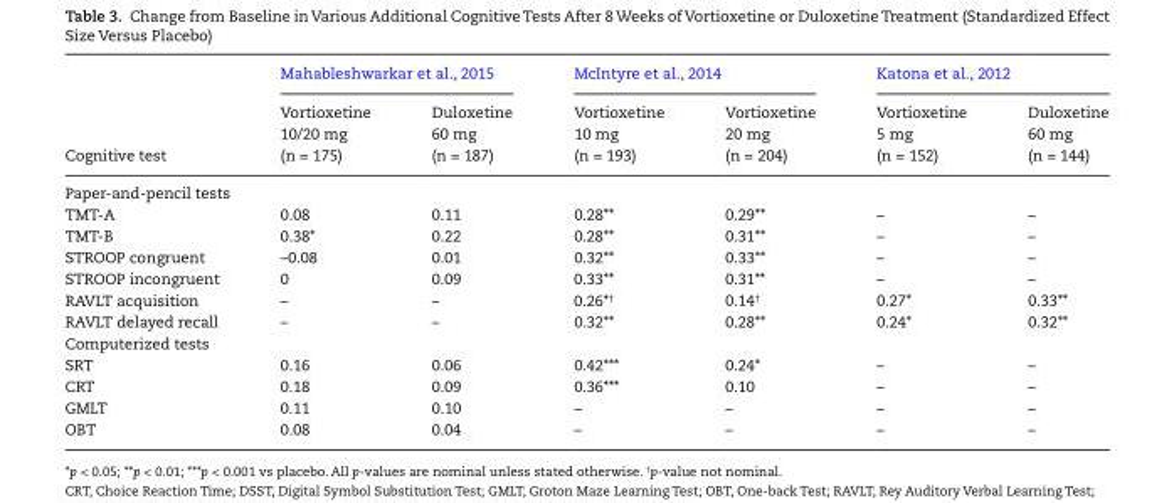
<table><thead><tr><td rowspan="2">Cognitive test</td><td colspan="2">Mahableshwarkar et al., 2015</td><td colspan="2">McIntyre et al., 2014</td><td colspan="2">Katona et al., 2012</td></tr><tr><td>Vortioxetine 10/20 mg (n = 175)</td><td>Duloxetine 60 mg (n = 187)</td><td>Vortioxetine 10 mg (n = 193)</td><td>Vortioxetine 20 mg (n = 204)</td><td>Vortioxetine 5 mg (n = 152)</td><td>Duloxetine 60 mg (n = 144)</td></tr></thead><tbody><tr><td colspan="7">Paper-and-pencil tests</td></tr><tr><td>TMT-A</td><td>0.08</td><td>0.11</td><td>0.28**</td><td>0.29**</td><td>–</td><td>–</td></tr><tr><td>TMT-B</td><td>0.38*</td><td>0.22</td><td>0.28**</td><td>0.31**</td><td>–</td><td>–</td></tr><tr><td>STROOP congruent</td><td>–0.08</td><td>0.01</td><td>0.32**</td><td>0.33**</td><td>–</td><td>–</td></tr><tr><td>STROOP incongruent</td><td>0</td><td>0.09</td><td>0.33**</td><td>0.31**</td><td>–</td><td>–</td></tr><tr><td>RAVLT acquisition</td><td>–</td><td>–</td><td>0.26*<sup>†</sup></td><td>0.14<sup>†</sup></td><td>0.27*</td><td>0.33**</td></tr><tr><td>RAVLT delayed recall</td><td>–</td><td>–</td><td>0.32**</td><td>0.28**</td><td>0.24*</td><td>0.32**</td></tr><tr><td colspan="7">Computerized tests</td></tr><tr><td>SRT</td><td>0.16</td><td>0.06</td><td>0.42***</td><td>0.24*</td><td>–</td><td>–</td></tr><tr><td>CRT</td><td>0.18</td><td>0.09</td><td>0.36***</td><td>0.10</td><td>–</td><td>–</td></tr><tr><td>GMLT</td><td>0.11</td><td>0.10</td><td>–</td><td>–</td><td>–</td><td>–</td></tr><tr><td>OBT</td><td>0.08</td><td>0.04</td><td>–</td><td>–</td><td>–</td><td>–</td></tr></tbody></table>